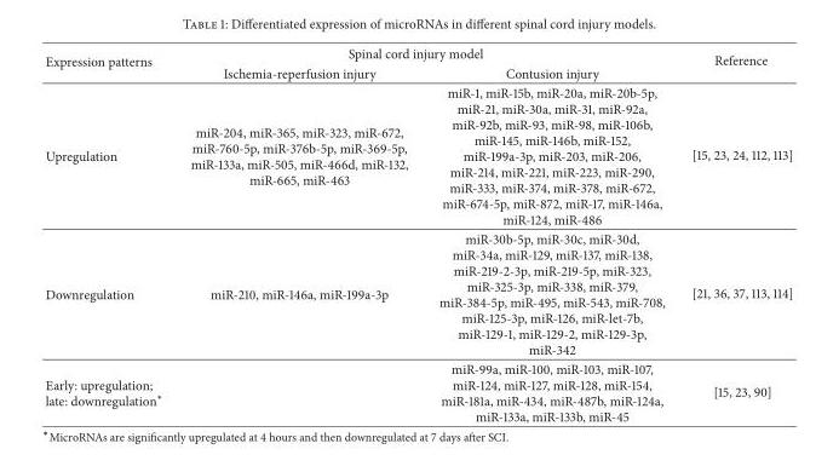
<table><thead><tr><td rowspan="2">Expression patterns</td><td colspan="2">Spinal cord injury model</td><td rowspan="2">Reference</td></tr><tr><td>Ischemia-reperfusion injury</td><td>Contusion injury</td></tr></thead><tbody><tr><td>Upregulation</td><td>miR-204, miR-365, miR-323, miR-672, miR-760-5p, miR-376b-5p, miR-369-5p, miR-133a, miR-505, miR-466d, miR-132, miR-665, miR-463</td><td>miR-1, miR-15b, miR-20a, miR-20b-5p, miR-21, miR-30a, miR-31, miR-92a, miR-92b, miR-93, miR-98, miR-106b, miR-145, miR-146b, miR-152, miR-199a-3p, miR-203, miR-206, miR-214, miR-221, miR-223, miR-290, miR-333, miR-374, miR-378, miR-672, miR-674-5p, miR-872, miR-17, miR-146a, miR-124, miR-486</td><td>[15, 23, 24, 112, 113]</td></tr><tr><td>Downregulation</td><td>miR-210, miR-146a, miR-199a-3p</td><td>miR-30b-5p, miR-30c, miR-30d, miR-34a, miR-129, miR-137, miR-138, miR-219-2-3p, miR-219-5p, miR-323, miR-325-3p, miR-338, miR-379, miR-384-5p, miR-495, miR-543, miR-708, miR-125-3p, miR-126, miR-let-7b, miR-129-1, miR-129-2, miR-129-3p, miR-342</td><td>[21, 36, 37, 113, 114]</td></tr><tr><td>Early: upregulation; late: downregulation∗</td><td></td><td>miR-99a, miR-100, miR-103, miR-107, miR-124, miR-127, miR-128, miR-154, miR-181a, miR-434, miR-487b, miR-124a, miR-133a, miR-133b, miR-45</td><td>[15, 23, 90]</td></tr></tbody></table>